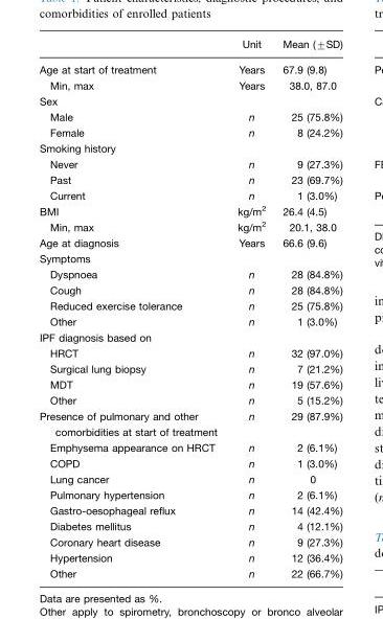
<table><thead><tr><td></td><td>Unit</td><td>Mean (±SD)</td></tr></thead><tbody><tr><td>Age at start of treatment</td><td>Years</td><td>67.9 (9.8)</td></tr><tr><td>Min, max</td><td>Years</td><td>38.0, 87.0</td></tr><tr><td colspan="3">Sex</td></tr><tr><td>Male</td><td>n</td><td>25 (75.8%)</td></tr><tr><td>Female</td><td>n</td><td>8 (24.2%)</td></tr><tr><td colspan="3">Smoking history</td></tr><tr><td>Never</td><td>n</td><td>9 (27.3%)</td></tr><tr><td>Past</td><td>n</td><td>23 (69.7%)</td></tr><tr><td>Current</td><td>n</td><td>1 (3.0%)</td></tr><tr><td>BMI</td><td>kg/m<sup>2</sup></td><td>26.4 (4.5)</td></tr><tr><td>Min, max</td><td>kg/m<sup>2</sup></td><td>20.1, 38.0</td></tr><tr><td>Age at diagnosis</td><td>Years</td><td>66.6 (9.6)</td></tr><tr><td colspan="3">Symptoms</td></tr><tr><td>Dyspnoea</td><td>n</td><td>28 (84.8%)</td></tr><tr><td>Cough</td><td>n</td><td>28 (84.8%)</td></tr><tr><td>Reduced exercise tolerance</td><td>n</td><td>25 (75.8%)</td></tr><tr><td>Other</td><td>n</td><td>1 (3.0%)</td></tr><tr><td colspan="3">IPF diagnosis based on</td></tr><tr><td>HRCT</td><td>n</td><td>32 (97.0%)</td></tr><tr><td>Surgical lung biopsy</td><td>n</td><td>7 (21.2%)</td></tr><tr><td>MDT</td><td>n</td><td>19 (57.6%)</td></tr><tr><td>Other</td><td>n</td><td>5 (15.2%)</td></tr><tr><td>Presence of pulmonary and other comorbidities at start of treatment</td><td>n</td><td>29 (87.9%)</td></tr><tr><td>Emphysema appearance on HRCT</td><td>n</td><td>2 (6.1%)</td></tr><tr><td>COPD</td><td>n</td><td>1 (3.0%)</td></tr><tr><td>Lung cancer</td><td>n</td><td>0</td></tr><tr><td>Pulmonary hypertension</td><td>n</td><td>2 (6.1%)</td></tr><tr><td>Gastro-oesophageal reflux</td><td>n</td><td>14 (42.4%)</td></tr><tr><td>Diabetes mellitus</td><td>n</td><td>4 (12.1%)</td></tr><tr><td>Coronary heart disease</td><td>n</td><td>9 (27.3%)</td></tr><tr><td>Hypertension</td><td>n</td><td>12 (36.4%)</td></tr><tr><td>Other</td><td>n</td><td>22 (66.7%)</td></tr></tbody></table>